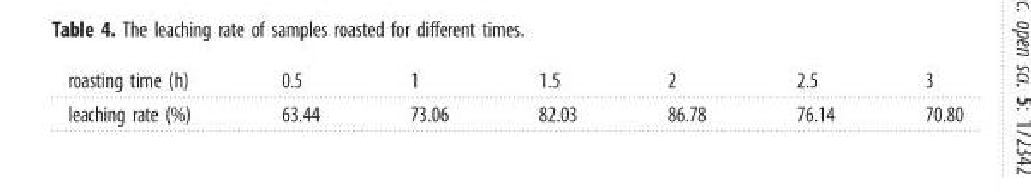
<table><tbody><tr><td>roasting time (h)</td><td>0.5</td><td>1</td><td>1.5</td><td>2</td><td>2.5</td><td>3</td></tr><tr><td>leaching rate (%)</td><td>63.44</td><td>73.06</td><td>82.03</td><td>86.78</td><td>76.14</td><td>70.80</td></tr></tbody></table>